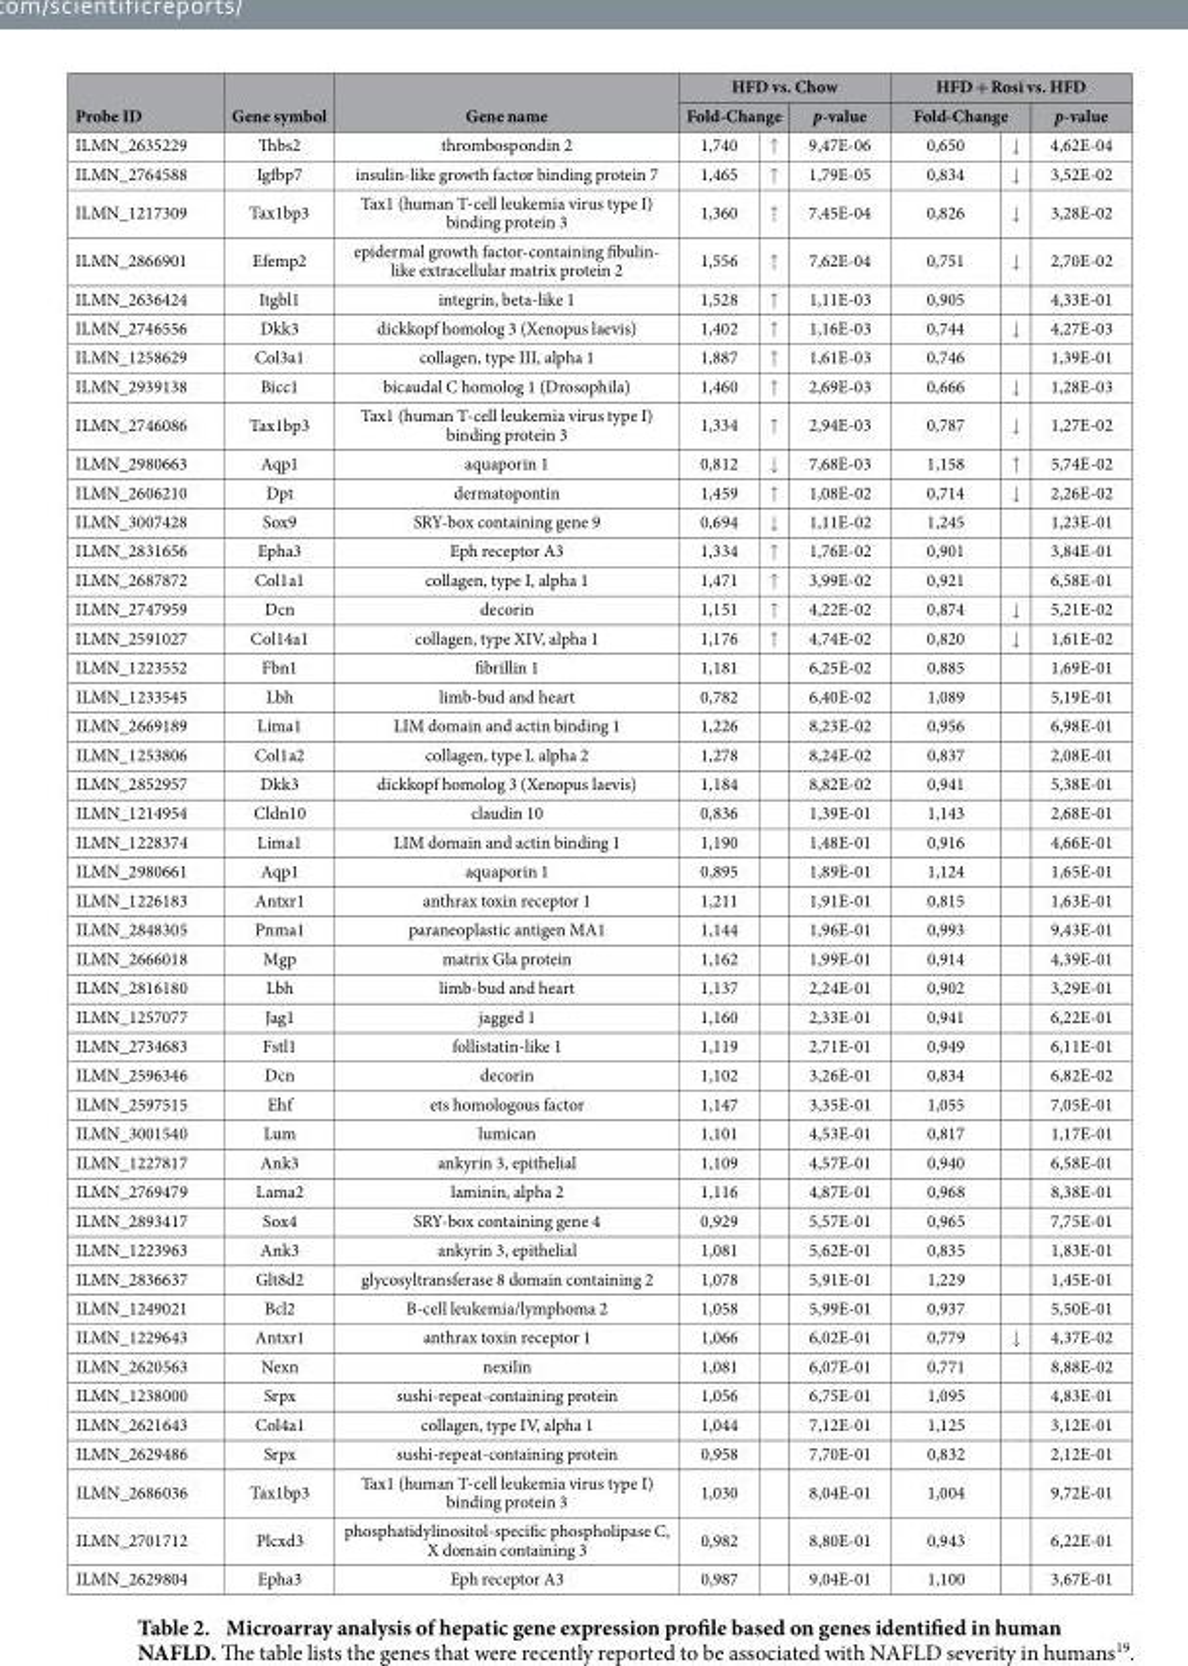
<table><thead><tr><td rowspan="3">Probe ID ILMN_2635229</td><td rowspan="3">Gene symbol Thbs2</td><td rowspan="3">Gene name thrombospondin 2</td><td colspan="3">HFD vs. Chow</td><td colspan="3">HFD + Rosi vs. HFD</td></tr><tr><td colspan="2">Fold-Change</td><td rowspan="2">p-value 9,47E-06</td><td colspan="2">Fold-Change</td><td rowspan="2">p-value 4,62E-04</td></tr><tr><td>1,740</td><td>↑</td><td>0,650</td><td>↓</td></tr></thead><tbody><tr><td>ILMN_2764588</td><td>Igfbp7</td><td>insulin-like growth factor binding protein 7</td><td>1,465</td><td>↑</td><td>1,79E-05</td><td>0,834</td><td>↓</td><td>3,52E-02</td></tr><tr><td>ILMN_1217309</td><td>Tax1bp3</td><td>Tax1 (human T-cell leukemia virus type I) binding protein 3</td><td>1,360</td><td>↑</td><td>7,45E-04</td><td>0,826</td><td>↓</td><td>3,28E-02</td></tr><tr><td>ILMN_2866901</td><td>Efemp2</td><td>epidermal growth factor-containing fibulin- like extracellular matrix protein 2</td><td>1,556</td><td>↑</td><td>7,62E-04</td><td>0,751</td><td>↓</td><td>2,70E-02</td></tr><tr><td>ILMN_2636424</td><td>Itgbl1</td><td>integrin, beta-like 1</td><td>1,528</td><td>↑</td><td>1,11E-03</td><td>0,905</td><td></td><td>4,33E-01</td></tr><tr><td>ILMN_2746556</td><td>Dkk3</td><td>dickkopf homolog 3 (Xenopus laevis)</td><td>1,402</td><td>↑</td><td>1,16E-03</td><td>0,744</td><td>↓</td><td>4,27E-03</td></tr><tr><td>ILMN_1258629</td><td>Col3a1</td><td>collagen, type III, alpha 1</td><td>1,887</td><td>↑</td><td>1,61E-03</td><td>0,746</td><td></td><td>1,39E-01</td></tr><tr><td>ILMN_2939138</td><td>Bicc1</td><td>bicaudal C homolog 1 (Drosophila)</td><td>1,460</td><td>↑</td><td>2,69E-03</td><td>0,666</td><td>↓</td><td>1,28E-03</td></tr><tr><td>ILMN_2746086</td><td>Tax1bp3</td><td>Tax1 (human T-cell leukemia virus type I) binding protein 3</td><td>1,334</td><td>↑</td><td>2,94E-03</td><td>0,787</td><td>↓</td><td>1,27E-02</td></tr><tr><td>ILMN_2980663</td><td>Aqp1</td><td>aquaporin 1</td><td>0,812</td><td>↓</td><td>7,68E-03</td><td>1,158</td><td>↑</td><td>5,74E-02</td></tr><tr><td>ILMN_2606210</td><td>Dpt</td><td>dermatopontin</td><td>1,459</td><td>↑</td><td>1,08E-02</td><td>0,714</td><td>↓</td><td>2,26E-02</td></tr><tr><td>ILMN_3007428</td><td>Sox9</td><td>SRY-box containing gene 9</td><td>0,694</td><td>↓</td><td>1,11E-02</td><td>1,245</td><td></td><td>1,23E-01</td></tr><tr><td>ILMN_2831656</td><td>Epha3</td><td>Eph receptor A3</td><td>1,334</td><td>↑</td><td>1,76E-02</td><td>0,901</td><td></td><td>3,84E-01</td></tr><tr><td>ILMN_2687872</td><td>Col1a1</td><td>collagen, type I, alpha 1</td><td>1,471</td><td>↑</td><td>3,99E-02</td><td>0,921</td><td></td><td>6,58E-01</td></tr><tr><td>ILMN_2747959</td><td>Dcn</td><td>decorin</td><td>1,151</td><td>↑</td><td>4,22E-02</td><td>0,874</td><td>↓</td><td>5,21E-02</td></tr><tr><td>ILMN_2591027</td><td>Col14a1</td><td>collagen, type XIV, alpha 1</td><td>1,176</td><td>↑</td><td>4,74E-02</td><td>0,820</td><td>↓</td><td>1,61E-02</td></tr><tr><td>ILMN_1223552</td><td>Fbn1</td><td>fibrillin 1</td><td>1,181</td><td></td><td>6,25E-02</td><td>0,885</td><td></td><td>1,69E-01</td></tr><tr><td>ILMN_1233545</td><td>Lbh</td><td>limb-bud and heart</td><td>0,782</td><td></td><td>6,40E-02</td><td>1,089</td><td></td><td>5,19E-01</td></tr><tr><td>ILMN_2669189</td><td>Lima1</td><td>LIM domain and actin binding 1</td><td>1,226</td><td></td><td>8,23E-02</td><td>0,956</td><td></td><td>6,98E-01</td></tr><tr><td>ILMN_1253806</td><td>Col1a2</td><td>collagen, type I, alpha 2</td><td>1,278</td><td></td><td>8,24E-02</td><td>0,837</td><td></td><td>2,08E-01</td></tr><tr><td>ILMN_2852957</td><td>Dkk3</td><td>dickkopf homolog 3 (Xenopus laevis)</td><td>1,184</td><td></td><td>8,82E-02</td><td>0,941</td><td></td><td>5,38E-01</td></tr><tr><td>ILMN_1214954</td><td>Cldn10</td><td>claudin 10</td><td>0,836</td><td></td><td>1,39E-01</td><td>1,143</td><td></td><td>2,68E-01</td></tr><tr><td>ILMN_1228374</td><td>Lima1</td><td>LIM domain and actin binding 1</td><td>1,190</td><td></td><td>1,48E-01</td><td>0,916</td><td></td><td>4,66E-01</td></tr><tr><td>ILMN_2980661</td><td>Aqp1</td><td>aquaporin 1</td><td>0,895</td><td></td><td>1,89E-01</td><td>1,124</td><td></td><td>1,65E-01</td></tr><tr><td>ILMN_1226183</td><td>Antxr1</td><td>anthrax toxin receptor 1</td><td>1,211</td><td></td><td>1,91E-01</td><td>0,815</td><td></td><td>1,63E-01</td></tr><tr><td>ILMN_2848305</td><td>Pnma1</td><td>paraneoplastic antigen MA1</td><td>1,144</td><td></td><td>1,96E-01</td><td>0,993</td><td></td><td>9,43E-01</td></tr><tr><td>ILMN_2666018</td><td>Mgp</td><td>matrix Gla protein</td><td>1,162</td><td></td><td>1,99E-01</td><td>0,914</td><td></td><td>4,39E-01</td></tr><tr><td>ILMN_2816180</td><td>Lbh</td><td>limb-bud and heart</td><td>1,137</td><td></td><td>2,24E-01</td><td>0,902</td><td></td><td>3,29E-01</td></tr><tr><td>ILMN_1257077</td><td>Jag1</td><td>jagged 1</td><td>1,160</td><td></td><td>2,33E-01</td><td>0,941</td><td></td><td>6,22E-01</td></tr><tr><td>ILMN_2734683</td><td>Fstl1</td><td>follistatin-like 1</td><td>1,119</td><td></td><td>2,71E-01</td><td>0,949</td><td></td><td>6,11E-01</td></tr><tr><td>ILMN_2596346</td><td>Dcn</td><td>decorin</td><td>1,102</td><td></td><td>3,26E-01</td><td>0,834</td><td></td><td>6,82E-02</td></tr><tr><td>ILMN_2597515</td><td>Ehf</td><td>ets homologous factor</td><td>1,147</td><td></td><td>3,35E-01</td><td>1,055</td><td></td><td>7,05E-01</td></tr><tr><td>ILMN_3001540</td><td>Lum</td><td>lumican</td><td>1,101</td><td></td><td>4,53E-01</td><td>0,817</td><td></td><td>1,17E-01</td></tr><tr><td>ILMN_1227817</td><td>Ank3</td><td>ankyrin 3, epithelial</td><td>1,109</td><td></td><td>4,57E-01</td><td>0,940</td><td></td><td>6,58E-01</td></tr><tr><td>ILMN_2769479</td><td>Lama2</td><td>laminin, alpha 2</td><td>1,116</td><td></td><td>4,87E-01</td><td>0,968</td><td></td><td>8,38E-01</td></tr><tr><td>ILMN_2893417</td><td>Sox4</td><td>SRY-box containing gene 4</td><td>0,929</td><td></td><td>5,57E-01</td><td>0,965</td><td></td><td>7,75E-01</td></tr><tr><td>ILMN_1223963</td><td>Ank3</td><td>ankyrin 3, epithelial</td><td>1,081</td><td></td><td>5,62E-01</td><td>0,835</td><td></td><td>1,83E-01</td></tr><tr><td>ILMN_2836637</td><td>Glt8d2</td><td>glycosyltransferase 8 domain containing 2</td><td>1,078</td><td></td><td>5,91E-01</td><td>1,229</td><td></td><td>1,45E-01</td></tr><tr><td>ILMN_1249021</td><td>Bcl2</td><td>B-cell leukemia/lymphoma 2</td><td>1,058</td><td></td><td>5,99E-01</td><td>0,937</td><td></td><td>5,50E-01</td></tr><tr><td>ILMN_1229643</td><td>Antxr1</td><td>anthrax toxin receptor 1</td><td>1,066</td><td></td><td>6,02E-01</td><td>0,779</td><td>↓</td><td>4,37E-02</td></tr><tr><td>ILMN_2620563</td><td>Nexn</td><td>nexilin</td><td>1,081</td><td></td><td>6,07E-01</td><td>0,771</td><td></td><td>8,88E-02</td></tr><tr><td>ILMN_1238000</td><td>Srpx</td><td>sushi-repeat-containing protein</td><td>1,056</td><td></td><td>6,75E-01</td><td>1,095</td><td></td><td>4,83E-01</td></tr><tr><td>ILMN_2621643</td><td>Col4a1</td><td>collagen, type IV, alpha 1</td><td>1,044</td><td></td><td>7,12E-01</td><td>1,125</td><td></td><td>3,12E-01</td></tr><tr><td>ILMN_2629486</td><td>Srpx</td><td>sushi-repeat-containing protein</td><td>0,958</td><td></td><td>7,70E-01</td><td>0,832</td><td></td><td>2,12E-01</td></tr><tr><td>ILMN_2686036</td><td>Tax1bp3</td><td>Tax1 (human T-cell leukemia virus type I) binding protein 3</td><td>1,030</td><td></td><td>8,04E-01</td><td>1,004</td><td></td><td>9,72E-01</td></tr><tr><td>ILMN_2701712</td><td>Plcxd3</td><td>phosphatidylinositol-specific phospholipase C, X domain containing 3</td><td>0,982</td><td></td><td>8,80E-01</td><td>0,943</td><td></td><td>6,22E-01</td></tr><tr><td>ILMN_2629804</td><td>Epha3</td><td>Eph receptor A3</td><td>0,987</td><td></td><td>9,04E-01</td><td>1,100</td><td></td><td>3,67E-01</td></tr></tbody></table>